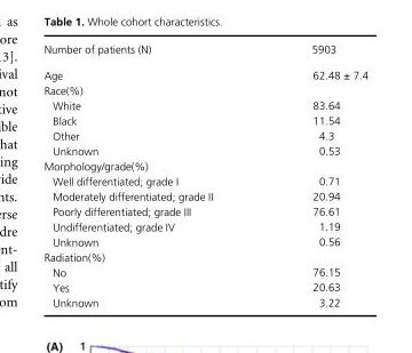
<table><thead><tr><td>Number of patients (N)</td><td>5903</td></tr></thead><tbody><tr><td>Age</td><td>62.48 ± 7.4</td></tr><tr><td colspan="2">Race(%)</td></tr><tr><td>White</td><td>83.64</td></tr><tr><td>Black</td><td>11.54</td></tr><tr><td>Other</td><td>4.3</td></tr><tr><td>Unknown</td><td>0.53</td></tr><tr><td colspan="2">Morphology/grade(%)</td></tr><tr><td>Well differentiated; grade I</td><td>0.71</td></tr><tr><td>Moderately differentiated; grade II</td><td>20.94</td></tr><tr><td>Poorly differentiated; grade III</td><td>76.61</td></tr><tr><td>Undifferentiated; grade IV</td><td>1.19</td></tr><tr><td>Unknown</td><td>0.56</td></tr><tr><td colspan="2">Radiation(%)</td></tr><tr><td>No</td><td>76.15</td></tr><tr><td>Yes</td><td>20.63</td></tr><tr><td>Unknown</td><td>3.22</td></tr></tbody></table>